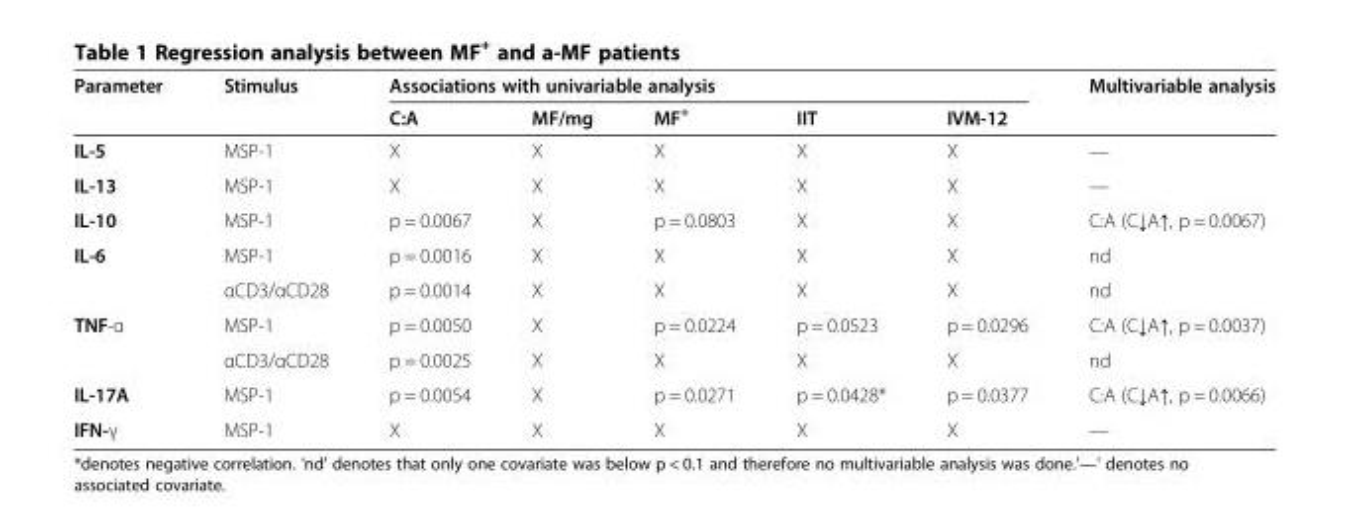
<table><thead><tr><td rowspan="2">Parameter</td><td rowspan="2">Stimulus</td><td colspan="5">Associations with univariable analysis</td><td rowspan="2">Multivariable analysis</td></tr><tr><td>C:A</td><td>MF/mg</td><td>MF<sup>+</sup></td><td>IIT</td><td>IVM-12</td></tr></thead><tbody><tr><td>IL-5</td><td>MSP-1</td><td>X</td><td>X</td><td>X</td><td>X</td><td>X</td><td>—</td></tr><tr><td>IL-13</td><td>MSP-1</td><td>X</td><td>X</td><td>X</td><td>X</td><td>X</td><td>—</td></tr><tr><td>IL-10</td><td>MSP-1</td><td>p = 0.0067</td><td>X</td><td>p = 0.0803</td><td>X</td><td>X</td><td>C:A (C↓A↑, p = 0.0067)</td></tr><tr><td rowspan="2">IL-6</td><td>MSP-1</td><td>p = 0.0016</td><td>X</td><td>X</td><td>X</td><td>X</td><td>nd</td></tr><tr><td>αCD3/αCD28</td><td>p = 0.0014</td><td>X</td><td>X</td><td>X</td><td>X</td><td>nd</td></tr><tr><td rowspan="2">TNF-α</td><td>MSP-1</td><td>p = 0.0050</td><td>X</td><td>p = 0.0224</td><td>p = 0.0523</td><td>p = 0.0296</td><td>C:A (C↓A↑, p = 0.0037)</td></tr><tr><td>αCD3/αCD28</td><td>p = 0.0025</td><td>X</td><td>X</td><td>X</td><td>X</td><td>nd</td></tr><tr><td>IL-17A</td><td>MSP-1</td><td>p = 0.0054</td><td>X</td><td>p = 0.0271</td><td>p = 0.0428*</td><td>p = 0.0377</td><td>C:A (C↓A↑, p = 0.0066)</td></tr><tr><td>IFN-γ</td><td>MSP-1</td><td>X</td><td>X</td><td>X</td><td>X</td><td>X</td><td>—</td></tr></tbody></table>